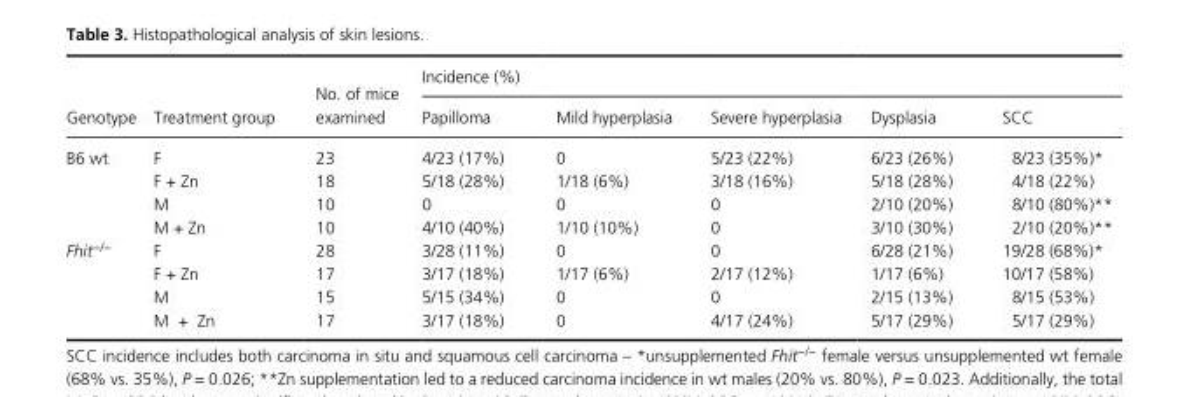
<table><thead><tr><td rowspan="2">Genotype</td><td rowspan="2">Treatment group</td><td rowspan="2">No. of mice examined</td><td colspan="5">Incidence (%)</td></tr><tr><td>Papilloma</td><td>Mild hyperplasia</td><td>Severe hyperplasia</td><td>Dysplasia</td><td>SCC</td></tr></thead><tbody><tr><td rowspan="4">B6 wt</td><td>F</td><td>23</td><td>4/23 (17%)</td><td>0</td><td>5/23 (22%)</td><td>6/23 (26%)</td><td>8/23 (35%)*</td></tr><tr><td>F + Zn</td><td>18</td><td>5/18 (28%)</td><td>1/18 (6%)</td><td>3/18 (16%)</td><td>5/18 (28%)</td><td>4/18 (22%)</td></tr><tr><td>M</td><td>10</td><td>0</td><td>0</td><td>0</td><td>2/10 (20%)</td><td>8/10 (80%)**</td></tr><tr><td>M + Zn</td><td>10</td><td>4/10 (40%)</td><td>1/10 (10%)</td><td>0</td><td>3/10 (30%)</td><td>2/10 (20%)**</td></tr><tr><td rowspan="4">Fhit<sup>−/−</sup></td><td>F</td><td>28</td><td>3/28 (11%)</td><td>0</td><td>0</td><td>6/28 (21%)</td><td>19/28 (68%)*</td></tr><tr><td>F + Zn</td><td>17</td><td>3/17 (18%)</td><td>1/17 (6%)</td><td>2/17 (12%)</td><td>1/17 (6%)</td><td>10/17 (58%)</td></tr><tr><td>M</td><td>15</td><td>5/15 (34%)</td><td>0</td><td>0</td><td>2/15 (13%)</td><td>8/15 (53%)</td></tr><tr><td>M + Zn</td><td>17</td><td>3/17 (18%)</td><td>0</td><td>4/17 (24%)</td><td>5/17 (29%)</td><td>5/17 (29%)</td></tr></tbody></table>